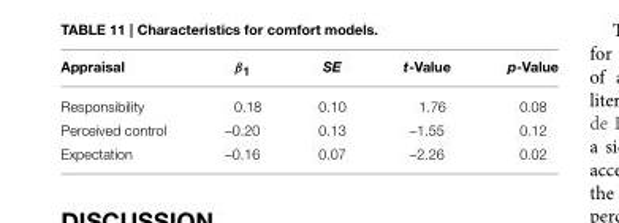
<table><thead><tr><td>Appraisal</td><td>β<sub>1</sub></td><td>SE</td><td>t-Value</td><td>p-Value</td></tr></thead><tbody><tr><td>Responsibility</td><td>0.18</td><td>0.10</td><td>1.76</td><td>0.08</td></tr><tr><td>Perceived control</td><td>–0.20</td><td>0.13</td><td>–1.55</td><td>0.12</td></tr><tr><td>Expectation</td><td>–0.16</td><td>0.07</td><td>–2.26</td><td>0.02</td></tr></tbody></table>